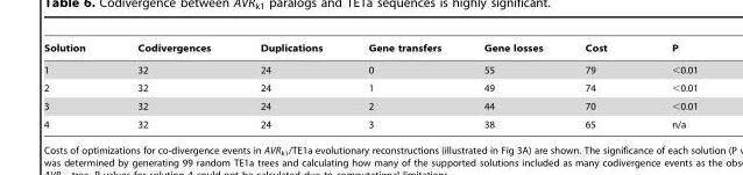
<table><thead><tr><td>Solution</td><td>Codivergences</td><td>Duplications</td><td>Gene transfers</td><td>Gene losses</td><td>Cost</td><td>P</td></tr></thead><tbody><tr><td>1</td><td>32</td><td>24</td><td>0</td><td>55</td><td>79</td><td>&lt;0.01</td></tr><tr><td>2</td><td>32</td><td>24</td><td>1</td><td>49</td><td>74</td><td>&lt;0.01</td></tr><tr><td>3</td><td>32</td><td>24</td><td>2</td><td>44</td><td>70</td><td>&lt;0.01</td></tr><tr><td>4</td><td>32</td><td>24</td><td>3</td><td>38</td><td>65</td><td>n/a</td></tr></tbody></table>